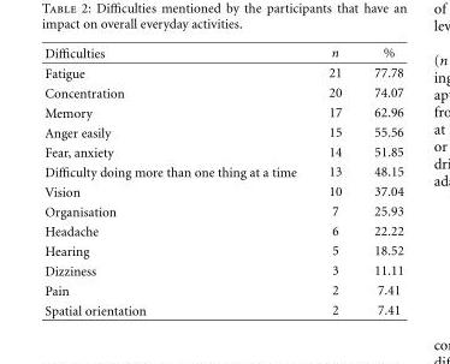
<table><thead><tr><td>Difficulties</td><td>n</td><td>%</td></tr></thead><tbody><tr><td>Fatigue</td><td>21</td><td>77.78</td></tr><tr><td>Concentration</td><td>20</td><td>74.07</td></tr><tr><td>Memory</td><td>17</td><td>62.96</td></tr><tr><td>Anger easily</td><td>15</td><td>55.56</td></tr><tr><td>Fear, anxiety</td><td>14</td><td>51.85</td></tr><tr><td>Difficulty doing more than one thing at a time</td><td>13</td><td>48.15</td></tr><tr><td>Vision</td><td>10</td><td>37.04</td></tr><tr><td>Organisation</td><td>7</td><td>25.93</td></tr><tr><td>Headache</td><td>6</td><td>22.22</td></tr><tr><td>Hearing</td><td>5</td><td>18.52</td></tr><tr><td>Dizziness</td><td>3</td><td>11.11</td></tr><tr><td>Pain</td><td>2</td><td>7.41</td></tr><tr><td>Spatial orientation</td><td>2</td><td>7.41</td></tr></tbody></table>